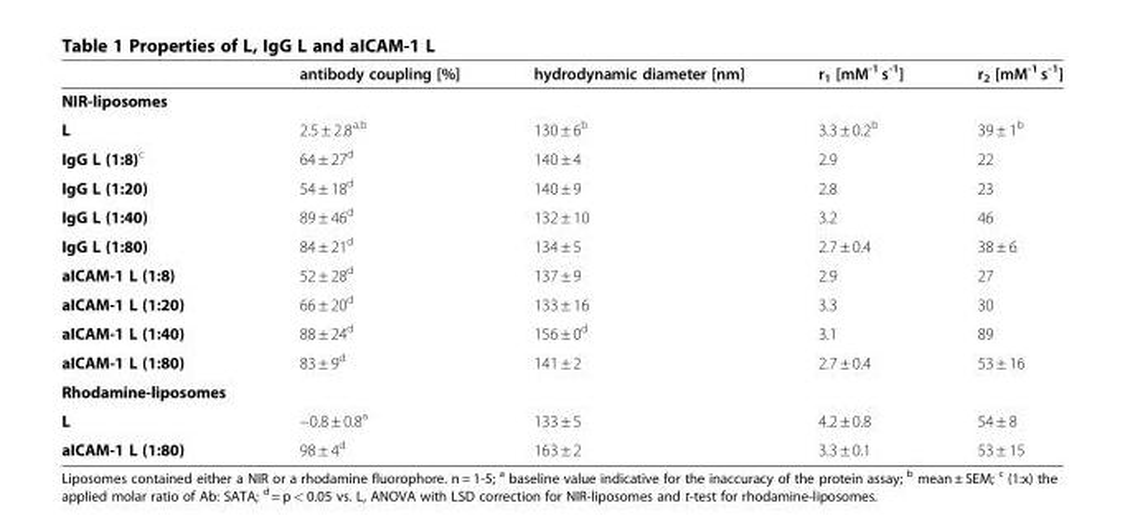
<table><thead><tr><td></td><td>antibody coupling [%]</td><td>hydrodynamic diameter [nm]</td><td>r<sub>1</sub> [mM<sup>-1</sup> s<sup>-1</sup>]</td><td>r<sub>2</sub> [mM<sup>-1</sup> s<sup>-1</sup>]</td></tr></thead><tbody><tr><td colspan="5">NIR-liposomes</td></tr><tr><td>L</td><td>2.5 ± 2.8<sup>a,b</sup></td><td>130 ± 6<sup>b</sup></td><td>3.3 ± 0.2<sup>b</sup></td><td>39 ± 1<sup>b</sup></td></tr><tr><td>IgG L (1:8)<sup>c</sup></td><td>64 ± 27<sup>d</sup></td><td>140 ± 4</td><td>2.9</td><td>22</td></tr><tr><td>IgG L (1:20)</td><td>54 ± 18<sup>d</sup></td><td>140 ± 9</td><td>2.8</td><td>23</td></tr><tr><td>IgG L (1:40)</td><td>89 ± 46<sup>d</sup></td><td>132 ± 10</td><td>3.2</td><td>46</td></tr><tr><td>IgG L (1:80)</td><td>84 ± 21<sup>d</sup></td><td>134 ± 5</td><td>2.7 ± 0.4</td><td>38 ± 6</td></tr><tr><td>aICAM-1 L (1:8)</td><td>52 ± 28<sup>d</sup></td><td>137 ± 9</td><td>2.9</td><td>27</td></tr><tr><td>aICAM-1 L (1:20)</td><td>66 ± 20<sup>d</sup></td><td>133 ± 16</td><td>3.3</td><td>30</td></tr><tr><td>aICAM-1 L (1:40)</td><td>88 ± 24<sup>d</sup></td><td>156 ± 0<sup>d</sup></td><td>3.1</td><td>89</td></tr><tr><td>aICAM-1 L (1:80)</td><td>83 ± 9<sup>d</sup></td><td>141 ± 2</td><td>2.7 ± 0.4</td><td>53 ± 16</td></tr><tr><td colspan="5">Rhodamine-liposomes</td></tr><tr><td>L</td><td>−0.8 ± 0.8<sup>a</sup></td><td>133 ± 5</td><td>4.2 ± 0.8</td><td>54 ± 8</td></tr><tr><td>aICAM-1 L (1:80)</td><td>98 ± 4<sup>d</sup></td><td>163 ± 2</td><td>3.3 ± 0.1</td><td>53 ± 15</td></tr></tbody></table>